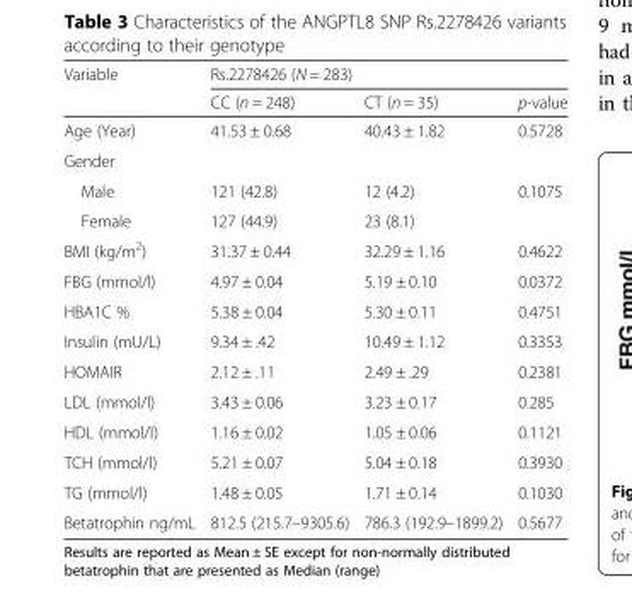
<table><thead><tr><td rowspan="2">Variable</td><td colspan="3">Rs.2278426 (N = 283)</td></tr><tr><td>CC (n = 248)</td><td>CT (n = 35)</td><td>p-value</td></tr></thead><tbody><tr><td>Age (Year)</td><td>41.53 ± 0.68</td><td>40.43 ± 1.82</td><td>0.5728</td></tr><tr><td colspan="4">Gender</td></tr><tr><td>Male</td><td>121 (42.8)</td><td>12 (4.2)</td><td rowspan="2">0.1075</td></tr><tr><td>Female</td><td>127 (44.9)</td><td>23 (8.1)</td></tr><tr><td>BMI (kg/m<sup>2</sup>)</td><td>31.37 ± 0.44</td><td>32.29 ± 1.16</td><td>0.4622</td></tr><tr><td>FBG (mmol/l)</td><td>4.97 ± 0.04</td><td>5.19 ± 0.10</td><td>0.0372</td></tr><tr><td>HBA1C %</td><td>5.38 ± 0.04</td><td>5.30 ± 0.11</td><td>0.4751</td></tr><tr><td>Insulin (mU/L)</td><td>9.34 ± .42</td><td>10.49 ± 1.12</td><td>0.3353</td></tr><tr><td>HOMAIR</td><td>2.12 ± .11</td><td>2.49 ± .29</td><td>0.2381</td></tr><tr><td>LDL (mmol/l)</td><td>3.43 ± 0.06</td><td>3.23 ± 0.17</td><td>0.285</td></tr><tr><td>HDL (mmol/l)</td><td>1.16 ± 0.02</td><td>1.05 ± 0.06</td><td>0.1121</td></tr><tr><td>TCH (mmol/l)</td><td>5.21 ± 0.07</td><td>5.04 ± 0.18</td><td>0.3930</td></tr><tr><td>TG (mmol/l)</td><td>1.48 ± 0.05</td><td>1.71 ± 0.14</td><td>0.1030</td></tr><tr><td>Betatrophin ng/mL</td><td>812.5 (215.7–9305.6)</td><td>786.3 (192.9–1899.2)</td><td>0.5677</td></tr></tbody></table>